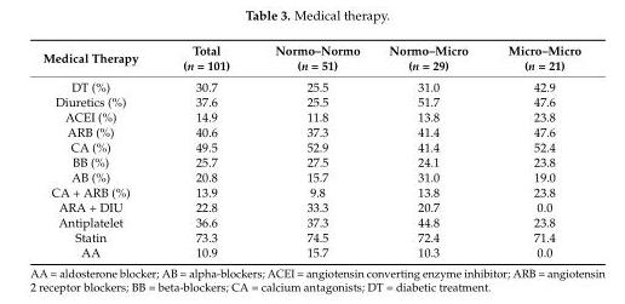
<table><thead><tr><td>Medical Therapy</td><td>Total (n = 101)</td><td>Normo–Normo (n = 51)</td><td>Normo–Micro (n = 29)</td><td>Micro–Micro (n = 21)</td></tr></thead><tbody><tr><td>DT (%)</td><td>30.7</td><td>25.5</td><td>31.0</td><td>42.9</td></tr><tr><td>Diuretics (%)</td><td>37.6</td><td>25.5</td><td>51.7</td><td>47.6</td></tr><tr><td>ACEI (%)</td><td>14.9</td><td>11.8</td><td>13.8</td><td>23.8</td></tr><tr><td>ARB (%)</td><td>40.6</td><td>37.3</td><td>41.4</td><td>47.6</td></tr><tr><td>CA (%)</td><td>49.5</td><td>52.9</td><td>41.4</td><td>52.4</td></tr><tr><td>BB (%)</td><td>25.7</td><td>27.5</td><td>24.1</td><td>23.8</td></tr><tr><td>AB (%)</td><td>20.8</td><td>15.7</td><td>31.0</td><td>19.0</td></tr><tr><td>CA + ARB (%)</td><td>13.9</td><td>9.8</td><td>13.8</td><td>23.8</td></tr><tr><td>ARA + DIU</td><td>22.8</td><td>33.3</td><td>20.7</td><td>0.0</td></tr><tr><td>Antiplatelet</td><td>36.6</td><td>37.3</td><td>44.8</td><td>23.8</td></tr><tr><td>Statin</td><td>73.3</td><td>74.5</td><td>72.4</td><td>71.4</td></tr><tr><td>AA</td><td>10.9</td><td>15.7</td><td>10.3</td><td>0.0</td></tr></tbody></table>